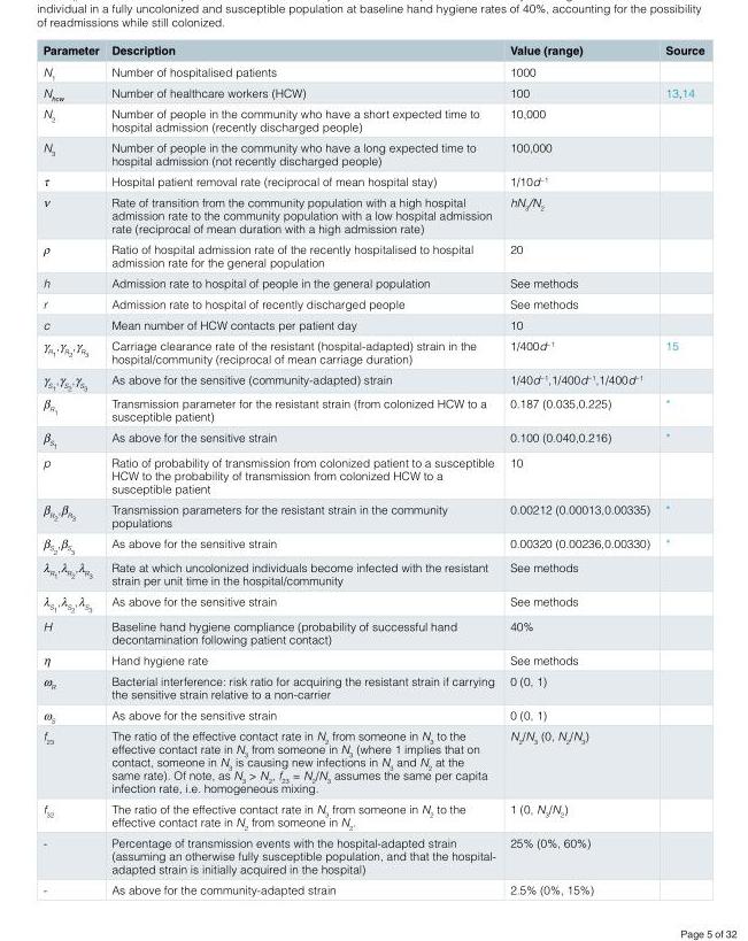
<table><thead><tr><td>Parameter</td><td>Description</td><td>Value (range)</td><td>Source</td></tr></thead><tbody><tr><td>N<sub>1</sub></td><td>Number of hospitalised patients</td><td>1000</td><td></td></tr><tr><td>N<sub>hcw</sub></td><td>Number of healthcare workers (HCW)</td><td>100</td><td>13,14</td></tr><tr><td>N<sub>2</sub></td><td>Number of people in the community who have a short expected time to hospital admission (recently discharged people)</td><td>10,000</td><td></td></tr><tr><td>N<sub>3</sub></td><td>Number of people in the community who have a long expected time to hospital admission (not recently discharged people)</td><td>100,000</td><td></td></tr><tr><td>τ</td><td>Hospital patient removal rate (reciprocal of mean hospital stay)</td><td>1/10d<sup>−1</sup></td><td></td></tr><tr><td>ν</td><td>Rate of transition from the community population with a high hospital admission rate to the community population with a low hospital admission rate (reciprocal of mean duration with a high admission rate)</td><td>hN<sub>3</sub>/N<sub>2</sub></td><td></td></tr><tr><td>ρ</td><td>Ratio of hospital admission rate of the recently hospitalised to hospital admission rate for the general population</td><td>20</td><td></td></tr><tr><td>h</td><td>Admission rate to hospital of people in the general population</td><td>See methods</td><td></td></tr><tr><td>r</td><td>Admission rate to hospital of recently discharged people</td><td>See methods</td><td></td></tr><tr><td>c</td><td>Mean number of HCW contacts per patient day</td><td>10</td><td></td></tr><tr><td>γR1,γR2,γR3</td><td>Carriage clearance rate of the resistant (hospital-adapted) strain in the hospital/community (reciprocal of mean carriage duration)</td><td>1/400d<sup>−1</sup></td><td>15</td></tr><tr><td>γS1,γS2,γS3</td><td>As above for the sensitive (community-adapted) strain</td><td>1/40d<sup>−1</sup>,1/400d<sup>−1</sup>,1/400d<sup>−1</sup></td><td></td></tr><tr><td>βR1</td><td>Transmission parameter for the resistant strain (from colonized HCW to a susceptible patient)</td><td>0.187 (0.035,0.225)</td><td>*</td></tr><tr><td>βS1</td><td>As above for the sensitive strain</td><td>0.100 (0.040,0.216)</td><td>*</td></tr><tr><td>p</td><td>Ratio of probability of transmission from colonized patient to a susceptible HCW to the probability of transmission from colonized HCW to a susceptible patient</td><td>10</td><td></td></tr><tr><td>βR2,βR3</td><td>Transmission parameters for the resistant strain in the community populations</td><td>0.00212 (0.00013,0.00335)</td><td>*</td></tr><tr><td>βS2,βS3</td><td>As above for the sensitive strain</td><td>0.00320 (0.00236,0.00330)</td><td>*</td></tr><tr><td>λR1,λR2,λR3</td><td>Rate at which uncolonized individuals become infected with the resistant strain per unit time in the hospital/community</td><td>See methods</td><td></td></tr><tr><td>λS1,λS2,λS3</td><td>As above for the sensitive strain</td><td>See methods</td><td></td></tr><tr><td>H</td><td>Baseline hand hygiene compliance (probability of successful hand decontamination following patient contact)</td><td>40%</td><td></td></tr><tr><td>η</td><td>Hand hygiene rate</td><td>See methods</td><td></td></tr><tr><td>ω<sub>R</sub></td><td>Bacterial interference: risk ratio for acquiring the resistant strain if carrying the sensitive strain relative to a non-carrier</td><td>0 (0, 1)</td><td></td></tr><tr><td>ω<sub>S</sub></td><td>As above for the sensitive strain</td><td>0 (0, 1)</td><td></td></tr><tr><td>f<sub>23</sub></td><td>The ratio of the effective contact rate in N<sub>2</sub> from someone in N<sub>3</sub> to the effective contact rate in N<sub>3</sub> from someone in N<sub>3</sub> (where 1 implies that on contact, someone in N<sub>3</sub> is causing new infections in N<sub>3</sub> and N<sub>2</sub> at the same rate). Of note, as N<sub>3</sub> &gt; N<sub>2</sub>, f<sub>23</sub> = N<sub>2</sub>/N<sub>3</sub> assumes the same per capita infection rate, i.e. homogeneous mixing.</td><td>N<sub>2</sub>/N<sub>3</sub> (0, N<sub>2</sub>/N<sub>3</sub>)</td><td></td></tr><tr><td>f<sub>32</sub></td><td>The ratio of the effective contact rate in N<sub>3</sub> from someone in N<sub>2</sub> to the effective contact rate in N<sub>2</sub> from someone in N<sub>2</sub>.</td><td>1 (0, N<sub>3</sub>/N<sub>2</sub>)</td><td></td></tr><tr><td>-</td><td>Percentage of transmission events with the hospital-adapted strain (assuming an otherwise fully susceptible population, and that the hospital- adapted strain is initially acquired in the hospital)</td><td>25% (0%, 60%)</td><td></td></tr><tr><td>-</td><td>As above for the community-adapted strain</td><td>2.5% (0%, 15%)</td><td></td></tr></tbody></table>